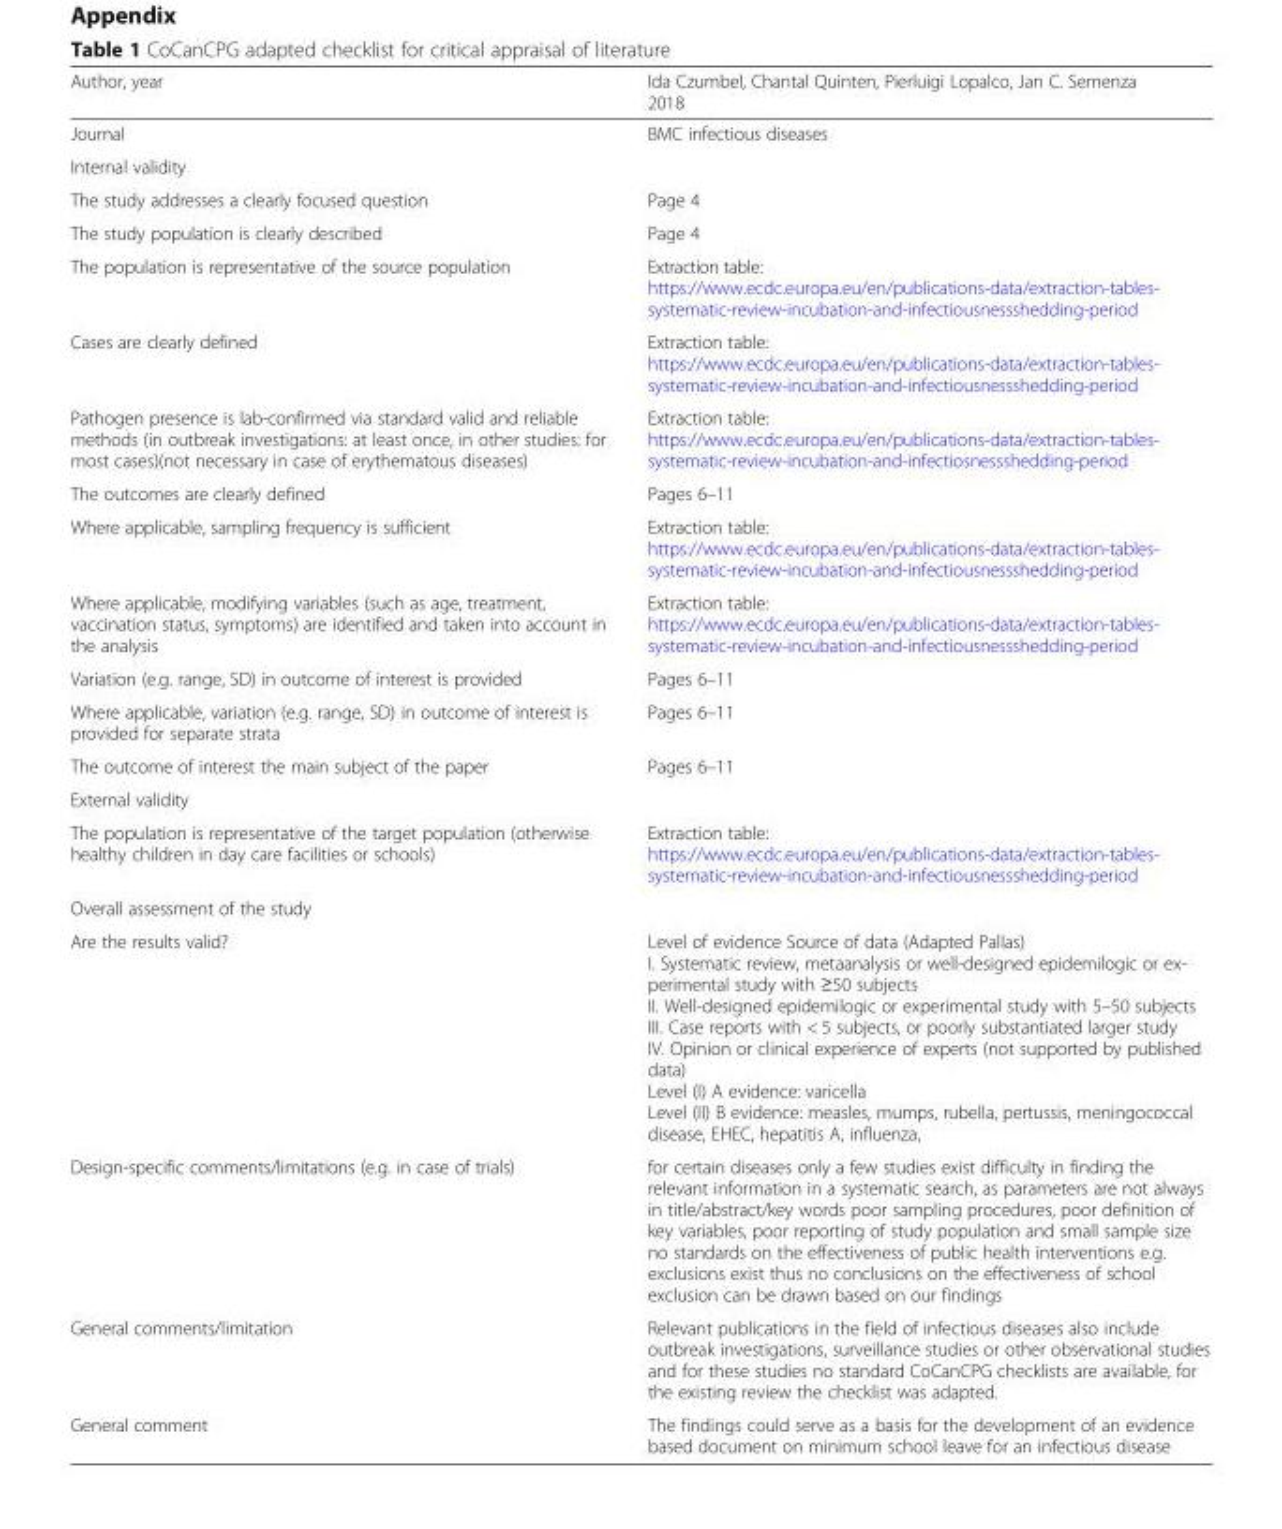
<table><thead><tr><td>Author, year</td><td>Ida Czumbel, Chantal Quinten, Pierluigi Lopalco, Jan C. Semenza 2018</td></tr></thead><tbody><tr><td>Journal</td><td>BMC infectious diseases</td></tr><tr><td colspan="2">Internal validity</td></tr><tr><td>The study addresses a clearly focused question</td><td>Page 4</td></tr><tr><td>The study population is clearly described</td><td>Page 4</td></tr><tr><td>The population is representative of the source population</td><td>Extraction table: https://www.ecdc.europa.eu/en/publications-data/extraction-tables- systematic-review-incubation-and-infectiousnessshedding-period</td></tr><tr><td>Cases are clearly defined</td><td>Extraction table: https://www.ecdc.europa.eu/en/publications-data/extraction-tables- systematic-review-incubation-and-infectiousnessshedding-period</td></tr><tr><td>Pathogen presence is lab-confirmed via standard valid and reliable methods (in outbreak investigations: at least once, in other studies: for most cases)(not necessary in case of erythematous diseases)</td><td>Extraction table: https://www.ecdc.europa.eu/en/publications-data/extraction-tables- systematic-review-incubation-and-infectiosnessshedding-period</td></tr><tr><td>The outcomes are clearly defined</td><td>Pages 6–11</td></tr><tr><td>Where applicable, sampling frequency is sufficient</td><td>Extraction table: https://www.ecdc.europa.eu/en/publications-data/extraction-tables- systematic-review-incubation-and-infectiousnessshedding-period</td></tr><tr><td>Where applicable, modifying variables (such as age, treatment, vaccination status, symptoms) are identified and taken into account in the analysis</td><td>Extraction table: https://www.ecdc.europa.eu/en/publications-data/extraction-tables- systematic-review-incubation-and-infectiousnessshedding-period</td></tr><tr><td>Variation (e.g. range, SD) in outcome of interest is provided</td><td>Pages 6–11</td></tr><tr><td>Where applicable, variation (e.g. range, SD) in outcome of interest is provided for separate strata</td><td>Pages 6–11</td></tr><tr><td>The outcome of interest the main subject of the paper</td><td>Pages 6–11</td></tr><tr><td colspan="2">External validity</td></tr><tr><td>The population is representative of the target population (otherwise healthy children in day care facilities or schools)</td><td>Extraction table: https://www.ecdc.europa.eu/en/publications-data/extraction-tables- systematic-review-incubation-and-infectiousnessshedding-period</td></tr><tr><td colspan="2">Overall assessment of the study</td></tr><tr><td>Are the results valid?</td><td>Level of evidence Source of data (Adapted Pallas) I. Systematic review, metaanalysis or well-designed epidemilogic or ex- perimental study with ≥50 subjects II. Well-designed epidemilogic or experimental study with 5–50 subjects III. Case reports with &lt; 5 subjects, or poorly substantiated larger study IV. Opinion or clinical experience of experts (not supported by published data) Level (I) A evidence: varicella Level (II) B evidence: measles, mumps, rubella, pertussis, meningococcal disease, EHEC, hepatitis A, influenza,</td></tr><tr><td>Design-specific comments/limitations (e.g. in case of trials)</td><td>for certain diseases only a few studies exist difficulty in finding the relevant information in a systematic search, as parameters are not always in title/abstract/key words poor sampling procedures, poor definition of key variables, poor reporting of study population and small sample size no standards on the effectiveness of public health interventions e.g. exclusions exist thus no conclusions on the effectiveness of school exclusion can be drawn based on our findings</td></tr><tr><td>General comments/limitation</td><td>Relevant publications in the field of infectious diseases also include outbreak investigations, surveillance studies or other observational studies and for these studies no standard CoCanCPG checklists are available, for the existing review the checklist was adapted.</td></tr><tr><td>General comment</td><td>The findings could serve as a basis for the development of an evidence based document on minimum school leave for an infectious disease</td></tr></tbody></table>